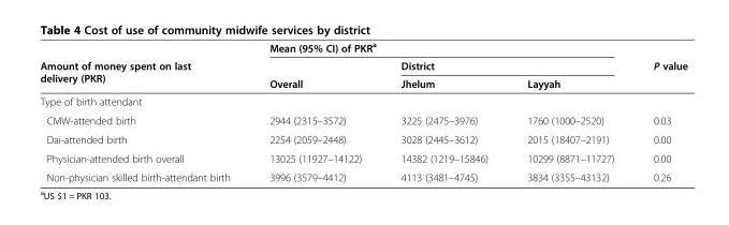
<table><thead><tr><td rowspan="3">Amount of money spent on last delivery (PKR)</td><td colspan="3">Mean (95% CI) of PKR<sup>a</sup></td><td rowspan="3">P value</td></tr><tr><td rowspan="2">Overall</td><td colspan="2">District</td></tr><tr><td>Jhelum</td><td>Layyah</td></tr></thead><tbody><tr><td colspan="5">Type of birth attendant</td></tr><tr><td>CMW-attended birth</td><td>2944 (2315–3572)</td><td>3225 (2475–3976)</td><td>1760 (1000–2520)</td><td>0.03</td></tr><tr><td>Dai-attended birth</td><td>2254 (2059–2448)</td><td>3028 (2445–3612)</td><td>2015 (18407–2191)</td><td>0.00</td></tr><tr><td>Physician-attended birth overall</td><td>13025 (11927–14122)</td><td>14382 (1219–15846)</td><td>10299 (8871–11727)</td><td>0.00</td></tr><tr><td>Non-physician skilled birth-attendant birth</td><td>3996 (3579–4412)</td><td>4113 (3481–4745)</td><td>3834 (3355–43132)</td><td>0.26</td></tr></tbody></table>